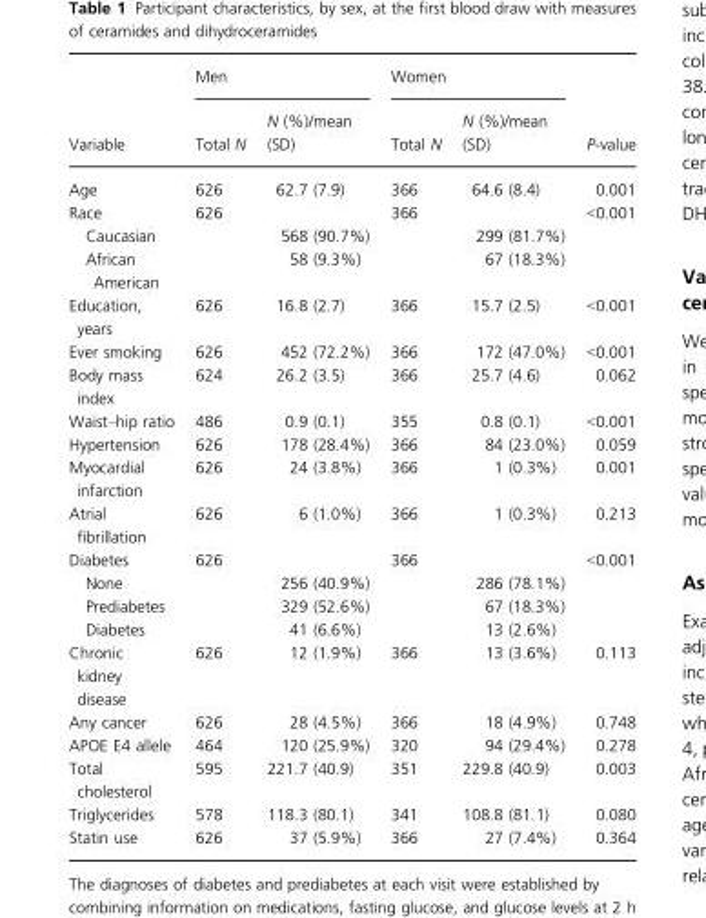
<table><thead><tr><td rowspan="2">Variable</td><td colspan="2">Men</td><td colspan="2">Women</td><td rowspan="2">P-value</td></tr><tr><td>Total N</td><td>N (%)/mean (SD)</td><td>Total N</td><td>N (%)/mean (SD)</td></tr></thead><tbody><tr><td>Age</td><td>626</td><td>62.7 (7.9)</td><td>366</td><td>64.6 (8.4)</td><td>0.001</td></tr><tr><td>Race</td><td>626</td><td></td><td>366</td><td></td><td>&lt;0.001</td></tr><tr><td>Caucasian</td><td></td><td>568 (90.7%)</td><td></td><td>299 (81.7%)</td><td></td></tr><tr><td>African American</td><td></td><td>58 (9.3%)</td><td></td><td>67 (18.3%)</td><td></td></tr><tr><td>Education, years</td><td>626</td><td>16.8 (2.7)</td><td>366</td><td>15.7 (2.5)</td><td>&lt;0.001</td></tr><tr><td>Ever smoking</td><td>626</td><td>452 (72.2%)</td><td>366</td><td>172 (47.0%)</td><td>&lt;0.001</td></tr><tr><td>Body mass index</td><td>624</td><td>26.2 (3.5)</td><td>366</td><td>25.7 (4.6)</td><td>0.062</td></tr><tr><td>Waist–hip ratio</td><td>486</td><td>0.9 (0.1)</td><td>355</td><td>0.8 (0.1)</td><td>&lt;0.001</td></tr><tr><td>Hypertension</td><td>626</td><td>178 (28.4%)</td><td>366</td><td>84 (23.0%)</td><td>0.059</td></tr><tr><td>Myocardial infarction</td><td>626</td><td>24 (3.8%)</td><td>366</td><td>1 (0.3%)</td><td>0.001</td></tr><tr><td>Atrial fibrillation</td><td>626</td><td>6 (1.0%)</td><td>366</td><td>1 (0.3%)</td><td>0.213</td></tr><tr><td>Diabetes</td><td>626</td><td></td><td>366</td><td></td><td>&lt;0.001</td></tr><tr><td>None</td><td></td><td>256 (40.9%)</td><td></td><td>286 (78.1%)</td><td></td></tr><tr><td>Prediabetes</td><td></td><td>329 (52.6%)</td><td></td><td>67 (18.3%)</td><td></td></tr><tr><td>Diabetes</td><td></td><td>41 (6.6%)</td><td></td><td>13 (2.6%)</td><td></td></tr><tr><td>Chronic kidney disease</td><td>626</td><td>12 (1.9%)</td><td>366</td><td>13 (3.6%)</td><td>0.113</td></tr><tr><td>Any cancer</td><td>626</td><td>28 (4.5%)</td><td>366</td><td>18 (4.9%)</td><td>0.748</td></tr><tr><td>APOE E4 allele</td><td>464</td><td>120 (25.9%)</td><td>320</td><td>94 (29.4%)</td><td>0.278</td></tr><tr><td>Total cholesterol</td><td>595</td><td>221.7 (40.9)</td><td>351</td><td>229.8 (40.9)</td><td>0.003</td></tr><tr><td>Triglycerides</td><td>578</td><td>118.3 (80.1)</td><td>341</td><td>108.8 (81.1)</td><td>0.080</td></tr><tr><td>Statin use</td><td>626</td><td>37 (5.9%)</td><td>366</td><td>27 (7.4%)</td><td>0.364</td></tr></tbody></table>